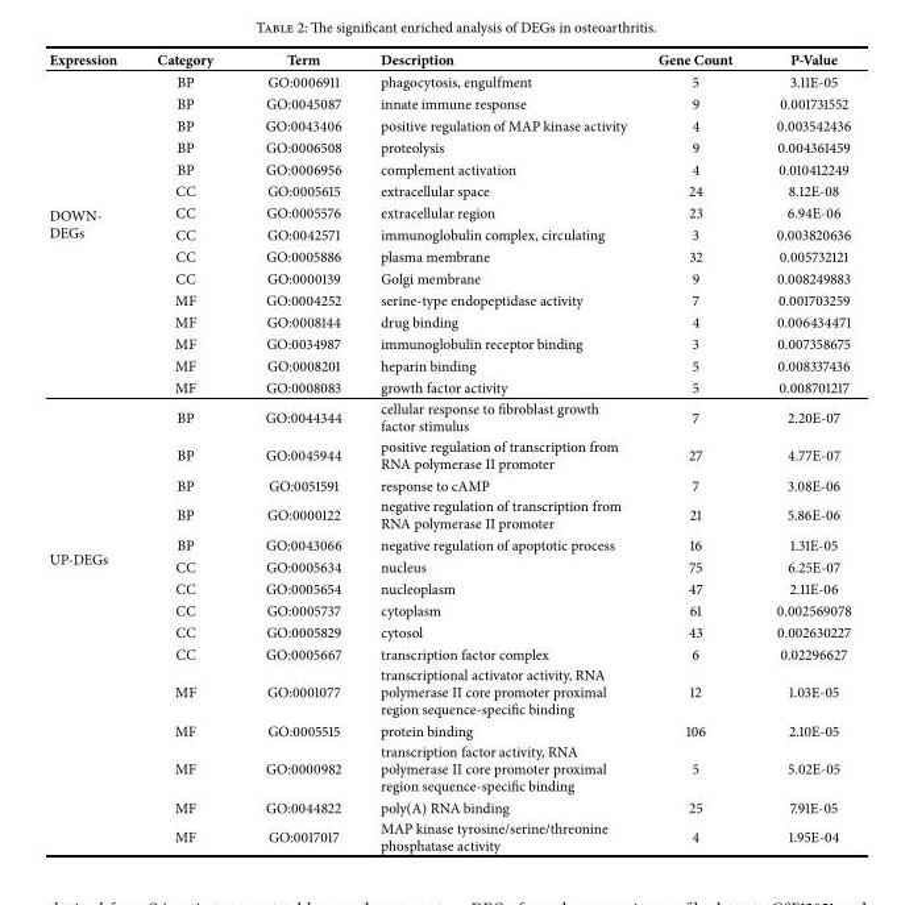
<table><thead><tr><td>Expression</td><td>Category</td><td>Term</td><td>Description</td><td>Gene Count</td><td>P-Value</td></tr></thead><tbody><tr><td rowspan="15">DOWN- DEGs</td><td>BP</td><td>GO:0006911</td><td>phagocytosis, engulfment</td><td>5</td><td>3.11E-05</td></tr><tr><td>BP</td><td>GO:0045087</td><td>innate immune response</td><td>9</td><td>0.001731552</td></tr><tr><td>BP</td><td>GO:0043406</td><td>positive regulation of MAP kinase activity</td><td>4</td><td>0.003542436</td></tr><tr><td>BP</td><td>GO:0006508</td><td>proteolysis</td><td>9</td><td>0.004361459</td></tr><tr><td>BP</td><td>GO:0006956</td><td>complement activation</td><td>4</td><td>0.010412249</td></tr><tr><td>CC</td><td>GO:0005615</td><td>extracellular space</td><td>24</td><td>8.12E-08</td></tr><tr><td>CC</td><td>GO:0005576</td><td>extracellular region</td><td>23</td><td>6.94E-06</td></tr><tr><td>CC</td><td>GO:0042571</td><td>immunoglobulin complex, circulating</td><td>3</td><td>0.003820636</td></tr><tr><td>CC</td><td>GO:0005886</td><td>plasma membrane</td><td>32</td><td>0.005732121</td></tr><tr><td>CC</td><td>GO:0000139</td><td>Golgi membrane</td><td>9</td><td>0.008249883</td></tr><tr><td>MF</td><td>GO:0004252</td><td>serine-type endopeptidase activity</td><td>7</td><td>0.001703259</td></tr><tr><td>MF</td><td>GO:0008144</td><td>drug binding</td><td>4</td><td>0.006434471</td></tr><tr><td>MF</td><td>GO:0034987</td><td>immunoglobulin receptor binding</td><td>3</td><td>0.007358675</td></tr><tr><td>MF</td><td>GO:0008201</td><td>heparin binding</td><td>5</td><td>0.008337436</td></tr><tr><td>MF</td><td>GO:0008083</td><td>growth factor activity</td><td>5</td><td>0.008701217</td></tr><tr><td rowspan="15">UP-DEGs</td><td>BP</td><td>GO:0044344</td><td>cellular response to fibroblast growth factor stimulus</td><td>7</td><td>2.20E-07</td></tr><tr><td>BP</td><td>GO:0045944</td><td>positive regulation of transcription from RNA polymerase II promoter</td><td>27</td><td>4.77E-07</td></tr><tr><td>BP</td><td>GO:0051591</td><td>response to cAMP</td><td>7</td><td>3.08E-06</td></tr><tr><td>BP</td><td>GO:0000122</td><td>negative regulation of transcription from RNA polymerase II promoter</td><td>21</td><td>5.86E-06</td></tr><tr><td>BP</td><td>GO:0043066</td><td>negative regulation of apoptotic process</td><td>16</td><td>1.31E-05</td></tr><tr><td>CC</td><td>GO:0005634</td><td>nucleus</td><td>75</td><td>6.25E-07</td></tr><tr><td>CC</td><td>GO:0005654</td><td>nucleoplasm</td><td>47</td><td>2.11E-06</td></tr><tr><td>CC</td><td>GO:0005737</td><td>cytoplasm</td><td>61</td><td>0.002569078</td></tr><tr><td>CC</td><td>GO:0005829</td><td>cytosol</td><td>43</td><td>0.002630227</td></tr><tr><td>CC</td><td>GO:0005667</td><td>transcription factor complex</td><td>6</td><td>0.02296627</td></tr><tr><td>MF</td><td>GO:0001077</td><td>transcriptional activator activity, RNA polymerase II core promoter proximal region sequence-specific binding</td><td>12</td><td>1.03E-05</td></tr><tr><td>MF</td><td>GO:0005515</td><td>protein binding</td><td>106</td><td>2.10E-05</td></tr><tr><td>MF</td><td>GO:0000982</td><td>transcription factor activity, RNA polymerase II core promoter proximal region sequence-specific binding</td><td>5</td><td>5.02E-05</td></tr><tr><td>MF</td><td>GO:0044822</td><td>poly(A) RNA binding</td><td>25</td><td>7.91E-05</td></tr><tr><td>MF</td><td>GO:0017017</td><td>MAP kinase tyrosine/serine/threonine phosphatase activity</td><td>4</td><td>1.95E-04</td></tr></tbody></table>